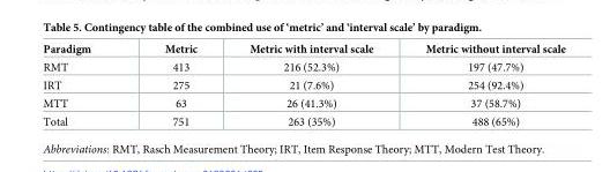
<table><thead><tr><td>Paradigm</td><td>Metric</td><td>Metric with interval scale</td><td>Metric without interval scale</td></tr></thead><tbody><tr><td>RMT</td><td>413</td><td>216 (52.3%)</td><td>197 (47.7%)</td></tr><tr><td>IRT</td><td>275</td><td>21 (7.6%)</td><td>254 (92.4%)</td></tr><tr><td>MTT</td><td>63</td><td>26 (41.3%)</td><td>37 (58.7%)</td></tr><tr><td>Total</td><td>751</td><td>263 (35%)</td><td>488 (65%)</td></tr></tbody></table>